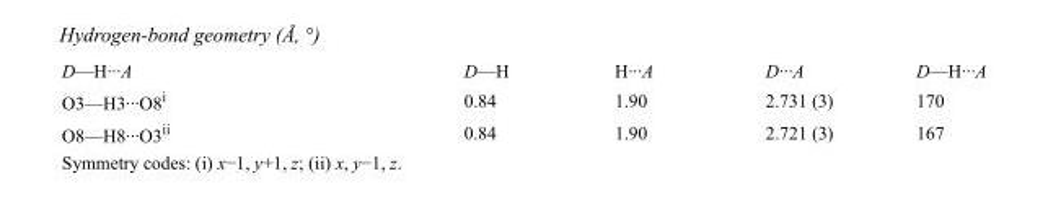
<table><tbody><tr><td>D—H···A</td><td>D—H</td><td>H···A</td><td>D···A</td><td>D—H···A</td></tr><tr><td>O3—H3···O8<sup>i</sup></td><td>0.84</td><td>1.90</td><td>2.731 (3)</td><td>170</td></tr><tr><td>O8—H8···O3<sup>ii</sup></td><td>0.84</td><td>1.90</td><td>2.721 (3)</td><td>167</td></tr></tbody></table>